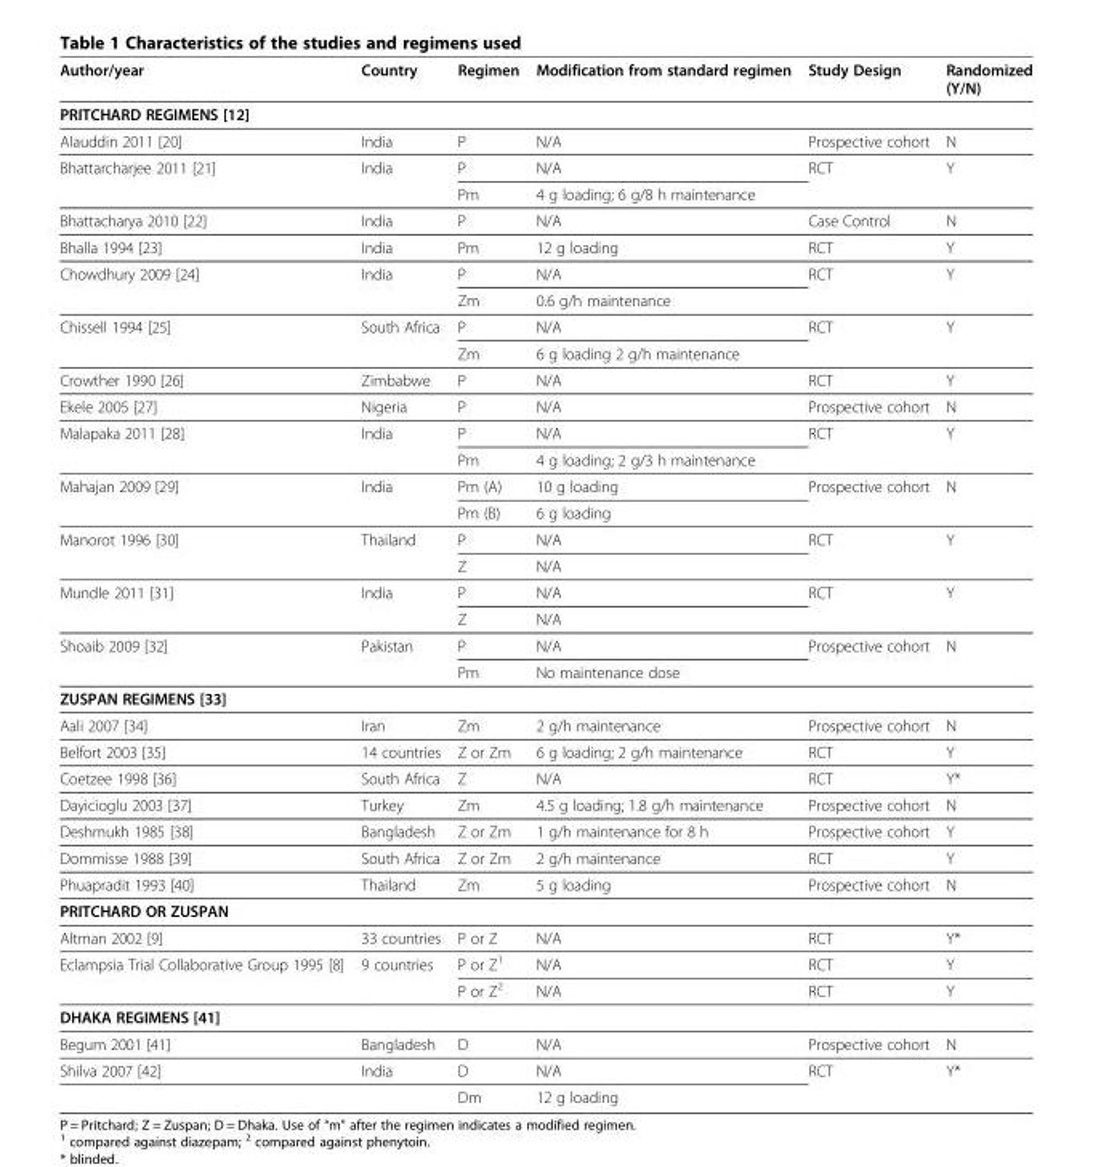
<table><thead><tr><td>Author/year</td><td>Country</td><td>Regimen</td><td>Modification from standard regimen</td><td>Study Design</td><td>Randomized (Y/N)</td></tr></thead><tbody><tr><td colspan="6">PRITCHARD REGIMENS [12]</td></tr><tr><td>Alauddin 2011 [20]</td><td>India</td><td>P</td><td>N/A</td><td>Prospective cohort</td><td>N</td></tr><tr><td rowspan="2">Bhattarcharjee 2011 [21]</td><td rowspan="2">India</td><td>P</td><td>N/A</td><td rowspan="2">RCT</td><td rowspan="2">Y</td></tr><tr><td>Pm</td><td>4 g loading; 6 g/8 h maintenance</td></tr><tr><td>Bhattacharya 2010 [22]</td><td>India</td><td>P</td><td>N/A</td><td>Case Control</td><td>N</td></tr><tr><td>Bhalla 1994 [23]</td><td>India</td><td>Pm</td><td>12 g loading</td><td>RCT</td><td>Y</td></tr><tr><td rowspan="2">Chowdhury 2009 [24]</td><td>India</td><td>P</td><td>N/A</td><td>RCT</td><td>Y</td></tr><tr><td></td><td>Zm</td><td>0.6 g/h maintenance</td><td></td><td></td></tr><tr><td rowspan="2">Chissell 1994 [25]</td><td rowspan="2">South Africa</td><td>P</td><td>N/A</td><td rowspan="2">RCT</td><td rowspan="2">Y</td></tr><tr><td>Zm</td><td>6 g loading 2 g/h maintenance</td></tr><tr><td>Crowther 1990 [26]</td><td>Zimbabwe</td><td>P</td><td>N/A</td><td>RCT</td><td>Y</td></tr><tr><td>Ekele 2005 [27]</td><td>Nigeria</td><td>P</td><td>N/A</td><td>Prospective cohort</td><td>N</td></tr><tr><td rowspan="2">Malapaka 2011 [28]</td><td>India</td><td>P</td><td>N/A</td><td>RCT</td><td>Y</td></tr><tr><td></td><td>Pm</td><td>4 g loading; 2 g/3 h maintenance</td><td></td><td></td></tr><tr><td rowspan="2">Mahajan 2009 [29]</td><td rowspan="2">India</td><td>Pm (A)</td><td>10 g loading</td><td rowspan="2">Prospective cohort</td><td rowspan="2">N</td></tr><tr><td>Pm (B)</td><td>6 g loading</td></tr><tr><td rowspan="2">Manorot 1996 [30]</td><td rowspan="2">Thailand</td><td>P</td><td>N/A</td><td rowspan="2">RCT</td><td rowspan="2">Y</td></tr><tr><td>Z</td><td>N/A</td></tr><tr><td rowspan="2">Mundle 2011 [31]</td><td>India</td><td>P</td><td>N/A</td><td>RCT</td><td>Y</td></tr><tr><td></td><td>Z</td><td>N/A</td><td></td><td></td></tr><tr><td rowspan="2">Shoaib 2009 [32]</td><td>Pakistan</td><td>P</td><td>N/A</td><td>Prospective cohort</td><td>N</td></tr><tr><td></td><td>Pm</td><td>No maintenance dose</td><td></td><td></td></tr><tr><td colspan="6">ZUSPAN REGIMENS [33]</td></tr><tr><td>Aali 2007 [34]</td><td>Iran</td><td>Zm</td><td>2 g/h maintenance</td><td>Prospective cohort</td><td>N</td></tr><tr><td>Belfort 2003 [35]</td><td>14 countries</td><td>Z or Zm</td><td>6 g loading; 2 g/h maintenance</td><td>RCT</td><td>Y</td></tr><tr><td>Coetzee 1998 [36]</td><td>South Africa</td><td>Z</td><td>N/A</td><td>RCT</td><td>Y*</td></tr><tr><td>Dayicioglu 2003 [37]</td><td>Turkey</td><td>Zm</td><td>4.5 g loading; 1.8 g/h maintenance</td><td>Prospective cohort</td><td>N</td></tr><tr><td>Deshmukh 1985 [38]</td><td>Bangladesh</td><td>Z or Zm</td><td>1 g/h maintenance for 8 h</td><td>Prospective cohort</td><td>Y</td></tr><tr><td>Dommisse 1988 [39]</td><td>South Africa</td><td>Z or Zm</td><td>2 g/h maintenance</td><td>RCT</td><td>Y</td></tr><tr><td>Phuapradit 1993 [40]</td><td>Thailand</td><td>Zm</td><td>5 g loading</td><td>Prospective cohort</td><td>N</td></tr><tr><td colspan="6">PRITCHARD OR ZUSPAN</td></tr><tr><td>Altman 2002 [9]</td><td>33 countries</td><td>P or Z</td><td>N/A</td><td>RCT</td><td>Y*</td></tr><tr><td rowspan="2">Eclampsia Trial Collaborative Group 1995 [8]</td><td rowspan="2">9 countries</td><td>P or Z<sup>1</sup></td><td>N/A</td><td>RCT</td><td>Y</td></tr><tr><td>P or Z<sup>2</sup></td><td>N/A</td><td>RCT</td><td>Y</td></tr><tr><td colspan="6">DHAKA REGIMENS [41]</td></tr><tr><td>Begum 2001 [41]</td><td>Bangladesh</td><td>D</td><td>N/A</td><td>Prospective cohort</td><td>N</td></tr><tr><td rowspan="2">Shilva 2007 [42]</td><td>India</td><td>D</td><td>N/A</td><td rowspan="2">RCT</td><td rowspan="2">Y*</td></tr><tr><td></td><td>Dm</td><td>12 g loading</td></tr></tbody></table>